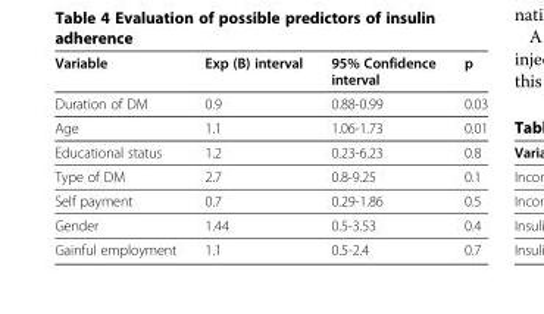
<table><thead><tr><td>Variable</td><td>Exp (B) interval</td><td>95% Confidence interval</td><td>p</td></tr></thead><tbody><tr><td>Duration of DM</td><td>0.9</td><td>0.88-0.99</td><td>0.03</td></tr><tr><td>Age</td><td>1.1</td><td>1.06-1.73</td><td>0.01</td></tr><tr><td>Educational status</td><td>1.2</td><td>0.23-6.23</td><td>0.8</td></tr><tr><td>Type of DM</td><td>2.7</td><td>0.8-9.25</td><td>0.1</td></tr><tr><td>Self payment</td><td>0.7</td><td>0.29-1.86</td><td>0.5</td></tr><tr><td>Gender</td><td>1.44</td><td>0.5-3.53</td><td>0.4</td></tr><tr><td>Gainful employment</td><td>1.1</td><td>0.5-2.4</td><td>0.7</td></tr></tbody></table>